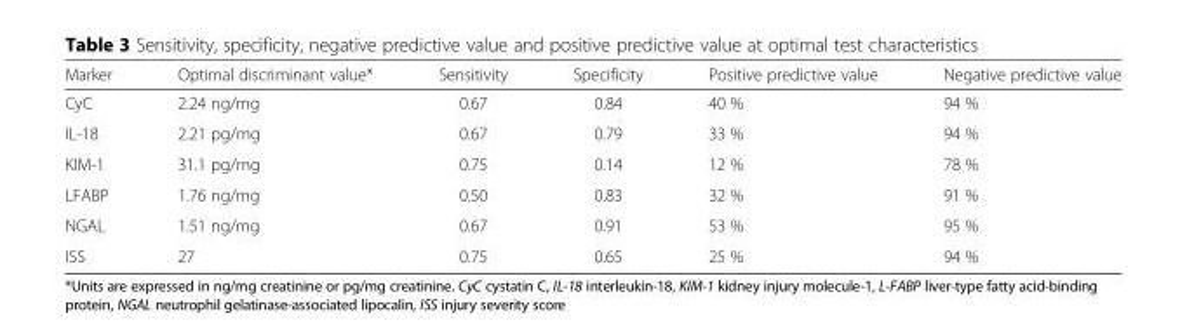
<table><thead><tr><td>Marker</td><td>Optimal discriminant value*</td><td>Sensitivity</td><td>Specificity</td><td>Positive predictive value</td><td>Negative predictive value</td></tr></thead><tbody><tr><td>CyC</td><td>2.24 ng/mg</td><td>0.67</td><td>0.84</td><td>40 %</td><td>94 %</td></tr><tr><td>IL-18</td><td>2.21 pg/mg</td><td>0.67</td><td>0.79</td><td>33 %</td><td>94 %</td></tr><tr><td>KIM-1</td><td>31.1 pg/mg</td><td>0.75</td><td>0.14</td><td>12 %</td><td>78 %</td></tr><tr><td>LFABP</td><td>1.76 ng/mg</td><td>0.50</td><td>0.83</td><td>32 %</td><td>91 %</td></tr><tr><td>NGAL</td><td>1.51 ng/mg</td><td>0.67</td><td>0.91</td><td>53 %</td><td>95 %</td></tr><tr><td>ISS</td><td>27</td><td>0.75</td><td>0.65</td><td>25 %</td><td>94 %</td></tr></tbody></table>